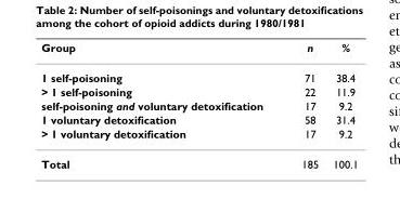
<table><thead><tr><td>Group</td><td>n</td><td>%</td></tr></thead><tbody><tr><td>1 self-poisoning</td><td>71</td><td>38.4</td></tr><tr><td>&gt; 1 self-poisoning</td><td>22</td><td>11.9</td></tr><tr><td>self-poisoning and voluntary detoxification</td><td>17</td><td>9.2</td></tr><tr><td>1 voluntary detoxification</td><td>58</td><td>31.4</td></tr><tr><td>&gt; 1 voluntary detoxification</td><td>17</td><td>9.2</td></tr><tr><td>Total</td><td>185</td><td>100.1</td></tr></tbody></table>